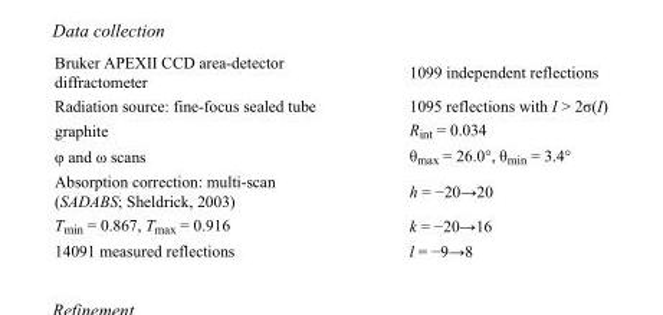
<table><tbody><tr><td>Bruker APEXII CCD area-detector diffractometer</td><td>1099 independent reflections</td></tr><tr><td>Radiation source: fine-focus sealed tube</td><td>1095 reflections with I &gt; 2σ(I)</td></tr><tr><td>graphite</td><td>R<sub>int</sub> = 0.034</td></tr><tr><td>φ and ω scans</td><td>θ<sub>max</sub> = 26.0°, θ<sub>min</sub> = 3.4°</td></tr><tr><td>Absorption correction: multi-scan (SADABS; Sheldrick, 2003)</td><td>h = −20→20</td></tr><tr><td>T<sub>min</sub> = 0.867, T<sub>max</sub> = 0.916</td><td>k = −20→16</td></tr><tr><td>14091 measured reflections</td><td>l = −9→8</td></tr></tbody></table>